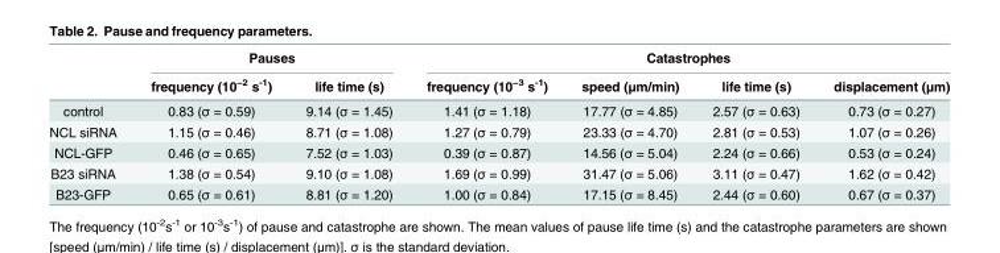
<table><thead><tr><td rowspan="2"></td><td colspan="2">Pauses</td><td colspan="4">Catastrophes</td></tr><tr><td>frequency (10<sup>−2</sup> s<sup>-1</sup>)</td><td>life time (s)</td><td>frequency (10<sup>−3</sup> s<sup>-1</sup>)</td><td>speed (μm/min)</td><td>life time (s)</td><td>displacement (μm)</td></tr></thead><tbody><tr><td>control</td><td>0.83 (σ = 0.59)</td><td>9.14 (σ = 1.45)</td><td>1.41 (σ = 1.18)</td><td>17.77 (σ = 4.85)</td><td>2.57 (σ = 0.63)</td><td>0.73 (σ = 0.27)</td></tr><tr><td>NCL siRNA</td><td>1.15 (σ = 0.46)</td><td>8.71 (σ = 1.08)</td><td>1.27 (σ = 0.79)</td><td>23.33 (σ = 4.70)</td><td>2.81 (σ = 0.53)</td><td>1.07 (σ = 0.26)</td></tr><tr><td>NCL-GFP</td><td>0.46 (σ = 0.65)</td><td>7.52 (σ = 1.03)</td><td>0.39 (σ = 0.87)</td><td>14.56 (σ = 5.04)</td><td>2.24 (σ = 0.66)</td><td>0.53 (σ = 0.24)</td></tr><tr><td>B23 siRNA</td><td>1.38 (σ = 0.54)</td><td>9.10 (σ = 1.08)</td><td>1.69 (σ = 0.99)</td><td>31.47 (σ = 5.06)</td><td>3.11 (σ = 0.47)</td><td>1.62 (σ = 0.42)</td></tr><tr><td>B23-GFP</td><td>0.65 (σ = 0.61)</td><td>8.81 (σ = 1.20)</td><td>1.00 (σ = 0.84)</td><td>17.15 (σ = 8.45)</td><td>2.44 (σ = 0.60)</td><td>0.67 (σ = 0.37)</td></tr></tbody></table>